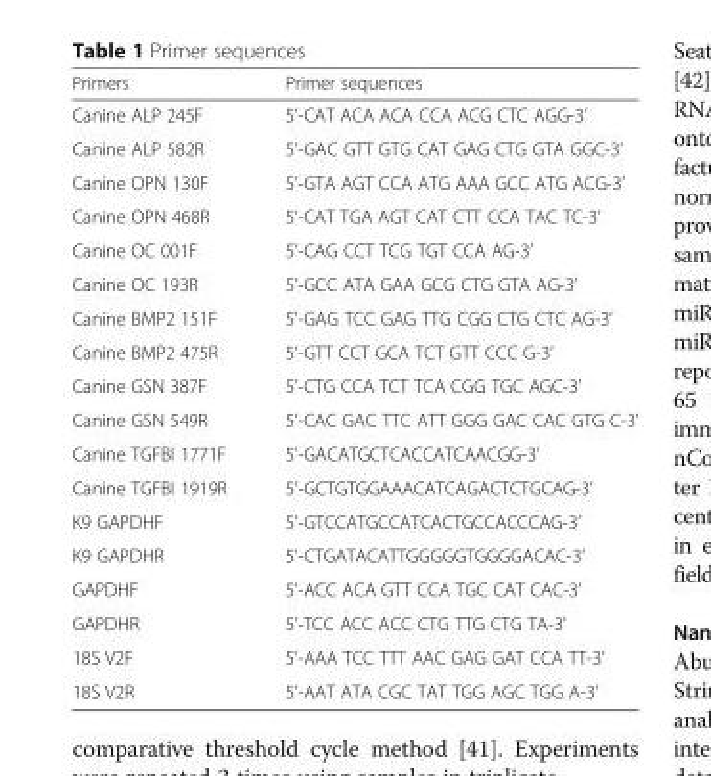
<table><thead><tr><td>Primers</td><td>Primer sequences</td></tr></thead><tbody><tr><td>Canine ALP 245F</td><td>5’-CAT ACA ACA CCA ACG CTC AGG-3’</td></tr><tr><td>Canine ALP 582R</td><td>5’-GAC GTT GTG CAT GAG CTG GTA GGC-3’</td></tr><tr><td>Canine OPN 130F</td><td>5’-GTA AGT CCA ATG AAA GCC ATG ACG-3’</td></tr><tr><td>Canine OPN 468R</td><td>5’-CAT TGA AGT CAT CTT CCA TAC TC-3’</td></tr><tr><td>Canine OC 001F</td><td>5’-CAG CCT TCG TGT CCA AG-3’</td></tr><tr><td>Canine OC 193R</td><td>5’-GCC ATA GAA GCG CTG GTA AG-3’</td></tr><tr><td>Canine BMP2 151F</td><td>5’-GAG TCC GAG TTG CGG CTG CTC AG-3’</td></tr><tr><td>Canine BMP2 475R</td><td>5’-GTT CCT GCA TCT GTT CCC G-3’</td></tr><tr><td>Canine GSN 387F</td><td>5’-CTG CCA TCT TCA CGG TGC AGC-3’</td></tr><tr><td>Canine GSN 549R</td><td>5’-CAC GAC TTC ATT GGG GAC CAC GTG C-3’</td></tr><tr><td>Canine TGFBI 1771F</td><td>5’-GACATGCTCACCATCAACGG-3’</td></tr><tr><td>Canine TGFBI 1919R</td><td>5’-GCTGTGGAAACATCAGACTCTGCAG-3’</td></tr><tr><td>K9 GAPDHF</td><td>5’-GTCCATGCCATCACTGCCACCCAG-3’</td></tr><tr><td>K9 GAPDHR</td><td>5’-CTGATACATTGGGGGTGGGGACAC-3’</td></tr><tr><td>GAPDHF</td><td>5’-ACC ACA GTT CCA TGC CAT CAC-3’</td></tr><tr><td>GAPDHR</td><td>5’-TCC ACC ACC CTG TTG CTG TA-3’</td></tr><tr><td>18S V2F</td><td>5’-AAA TCC TTT AAC GAG GAT CCA TT-3’</td></tr><tr><td>18S V2R</td><td>5’-AAT ATA CGC TAT TGG AGC TGG A-3’</td></tr></tbody></table>